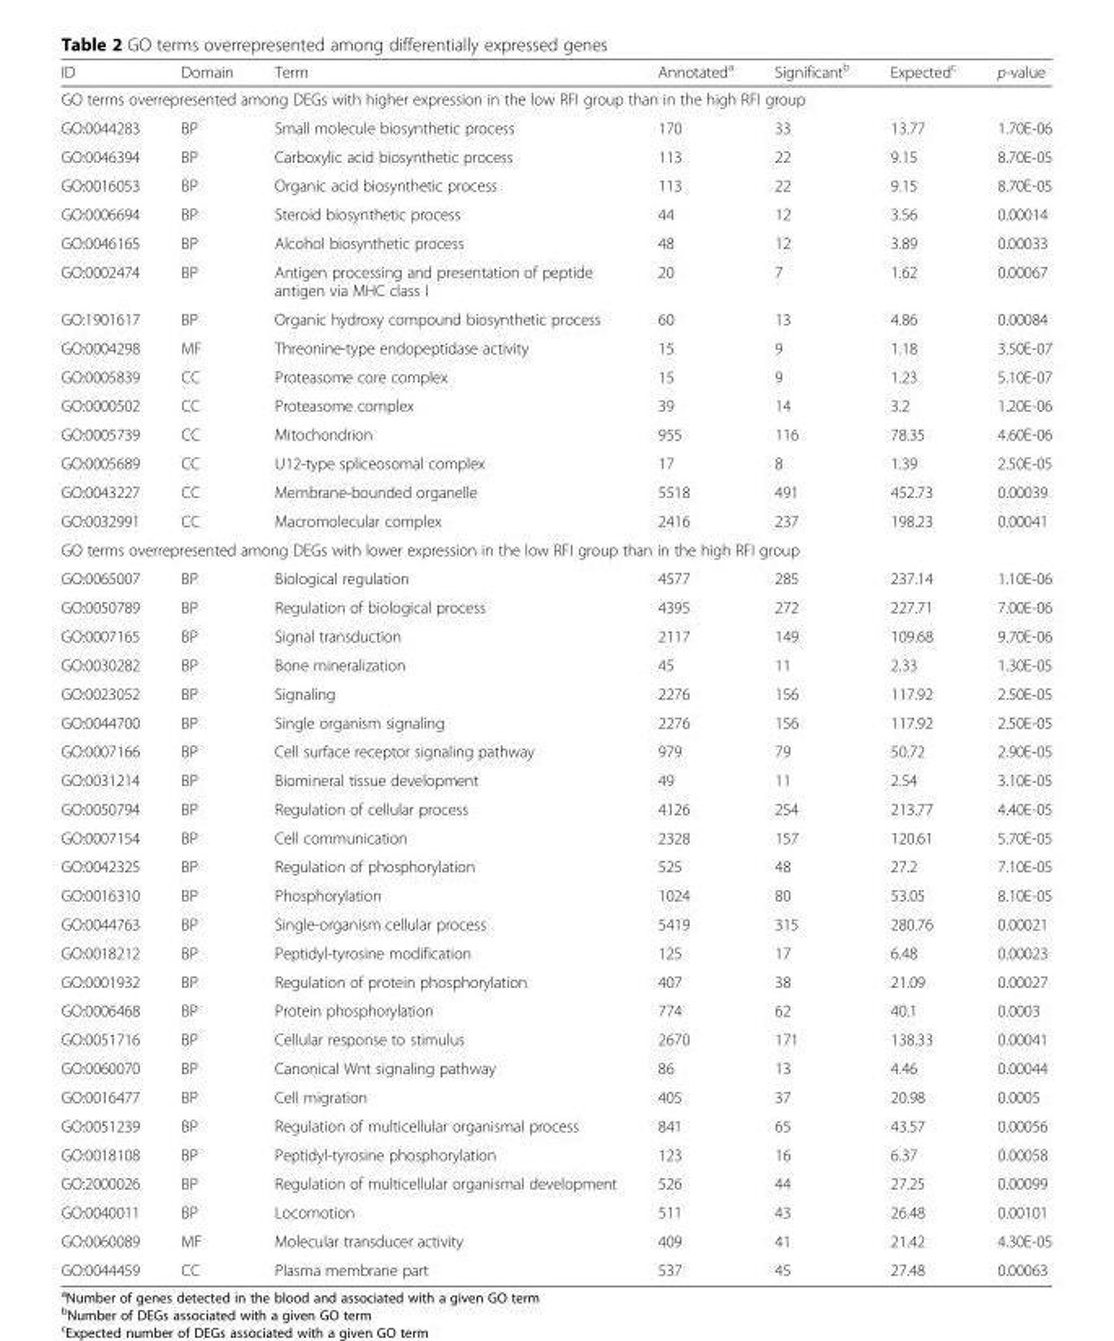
<table><thead><tr><td>ID</td><td>Domain</td><td>Term</td><td>Annotated<sup>a</sup></td><td>Significant<sup>b</sup></td><td>Expected<sup>c</sup></td><td>p-value</td></tr></thead><tbody><tr><td colspan="7">GO terms overrepresented among DEGs with higher expression in the low RFI group than in the high RFI group</td></tr><tr><td>GO:0044283</td><td>BP</td><td>Small molecule biosynthetic process</td><td>170</td><td>33</td><td>13.77</td><td>1.70E-06</td></tr><tr><td>GO:0046394</td><td>BP</td><td>Carboxylic acid biosynthetic process</td><td>113</td><td>22</td><td>9.15</td><td>8.70E-05</td></tr><tr><td>GO:0016053</td><td>BP</td><td>Organic acid biosynthetic process</td><td>113</td><td>22</td><td>9.15</td><td>8.70E-05</td></tr><tr><td>GO:0006694</td><td>BP</td><td>Steroid biosynthetic process</td><td>44</td><td>12</td><td>3.56</td><td>0.00014</td></tr><tr><td>GO:0046165</td><td>BP</td><td>Alcohol biosynthetic process</td><td>48</td><td>12</td><td>3.89</td><td>0.00033</td></tr><tr><td>GO:0002474</td><td>BP</td><td>Antigen processing and presentation of peptide antigen via MHC class I</td><td>20</td><td>7</td><td>1.62</td><td>0.00067</td></tr><tr><td>GO:1901617</td><td>BP</td><td>Organic hydroxy compound biosynthetic process</td><td>60</td><td>13</td><td>4.86</td><td>0.00084</td></tr><tr><td>GO:0004298</td><td>MF</td><td>Threonine-type endopeptidase activity</td><td>15</td><td>9</td><td>1.18</td><td>3.50E-07</td></tr><tr><td>GO:0005839</td><td>CC</td><td>Proteasome core complex</td><td>15</td><td>9</td><td>1.23</td><td>5.10E-07</td></tr><tr><td>GO:0000502</td><td>CC</td><td>Proteasome complex</td><td>39</td><td>14</td><td>3.2</td><td>1.20E-06</td></tr><tr><td>GO:0005739</td><td>CC</td><td>Mitochondrion</td><td>955</td><td>116</td><td>78.35</td><td>4.60E-06</td></tr><tr><td>GO:0005689</td><td>CC</td><td>U12-type spliceosomal complex</td><td>17</td><td>8</td><td>1.39</td><td>2.50E-05</td></tr><tr><td>GO:0043227</td><td>CC</td><td>Membrane-bounded organelle</td><td>5518</td><td>491</td><td>452.73</td><td>0.00039</td></tr><tr><td>GO:0032991</td><td>CC</td><td>Macromolecular complex</td><td>2416</td><td>237</td><td>198.23</td><td>0.00041</td></tr><tr><td colspan="7">GO terms overrepresented among DEGs with lower expression in the low RFI group than in the high RFI group</td></tr><tr><td>GO:0065007</td><td>BP</td><td>Biological regulation</td><td>4577</td><td>285</td><td>237.14</td><td>1.10E-06</td></tr><tr><td>GO:0050789</td><td>BP</td><td>Regulation of biological process</td><td>4395</td><td>272</td><td>227.71</td><td>7.00E-06</td></tr><tr><td>GO:0007165</td><td>BP</td><td>Signal transduction</td><td>2117</td><td>149</td><td>109.68</td><td>9.70E-06</td></tr><tr><td>GO:0030282</td><td>BP</td><td>Bone mineralization</td><td>45</td><td>11</td><td>2.33</td><td>1.30E-05</td></tr><tr><td>GO:0023052</td><td>BP</td><td>Signaling</td><td>2276</td><td>156</td><td>117.92</td><td>2.50E-05</td></tr><tr><td>GO:0044700</td><td>BP</td><td>Single organism signaling</td><td>2276</td><td>156</td><td>117.92</td><td>2.50E-05</td></tr><tr><td>GO:0007166</td><td>BP</td><td>Cell surface receptor signaling pathway</td><td>979</td><td>79</td><td>50.72</td><td>2.90E-05</td></tr><tr><td>GO:0031214</td><td>BP</td><td>Biomineral tissue development</td><td>49</td><td>11</td><td>2.54</td><td>3.10E-05</td></tr><tr><td>GO:0050794</td><td>BP</td><td>Regulation of cellular process</td><td>4126</td><td>254</td><td>213.77</td><td>4.40E-05</td></tr><tr><td>GO:0007154</td><td>BP</td><td>Cell communication</td><td>2328</td><td>157</td><td>120.61</td><td>5.70E-05</td></tr><tr><td>GO:0042325</td><td>BP</td><td>Regulation of phosphorylation</td><td>525</td><td>48</td><td>27.2</td><td>7.10E-05</td></tr><tr><td>GO:0016310</td><td>BP</td><td>Phosphorylation</td><td>1024</td><td>80</td><td>53.05</td><td>8.10E-05</td></tr><tr><td>GO:0044763</td><td>BP</td><td>Single-organism cellular process</td><td>5419</td><td>315</td><td>280.76</td><td>0.00021</td></tr><tr><td>GO:0018212</td><td>BP</td><td>Peptidyl-tyrosine modification</td><td>125</td><td>17</td><td>6.48</td><td>0.00023</td></tr><tr><td>GO:0001932</td><td>BP</td><td>Regulation of protein phosphorylation</td><td>407</td><td>38</td><td>21.09</td><td>0.00027</td></tr><tr><td>GO:0006468</td><td>BP</td><td>Protein phosphorylation</td><td>774</td><td>62</td><td>40.1</td><td>0.0003</td></tr><tr><td>GO:0051716</td><td>BP</td><td>Cellular response to stimulus</td><td>2670</td><td>171</td><td>138.33</td><td>0.00041</td></tr><tr><td>GO:0060070</td><td>BP</td><td>Canonical Wnt signaling pathway</td><td>86</td><td>13</td><td>4.46</td><td>0.00044</td></tr><tr><td>GO:0016477</td><td>BP</td><td>Cell migration</td><td>405</td><td>37</td><td>20.98</td><td>0.0005</td></tr><tr><td>GO:0051239</td><td>BP</td><td>Regulation of multicellular organismal process</td><td>841</td><td>65</td><td>43.57</td><td>0.00056</td></tr><tr><td>GO:0018108</td><td>BP</td><td>Peptidyl-tyrosine phosphorylation</td><td>123</td><td>16</td><td>6.37</td><td>0.00058</td></tr><tr><td>GO:2000026</td><td>BP</td><td>Regulation of multicellular organismal development</td><td>526</td><td>44</td><td>27.25</td><td>0.00099</td></tr><tr><td>GO:0040011</td><td>BP</td><td>Locomotion</td><td>511</td><td>43</td><td>26.48</td><td>0.00101</td></tr><tr><td>GO:0060089</td><td>MF</td><td>Molecular transducer activity</td><td>409</td><td>41</td><td>21.42</td><td>4.30E-05</td></tr><tr><td>GO:0044459</td><td>CC</td><td>Plasma membrane part</td><td>537</td><td>45</td><td>27.48</td><td>0.00063</td></tr></tbody></table>